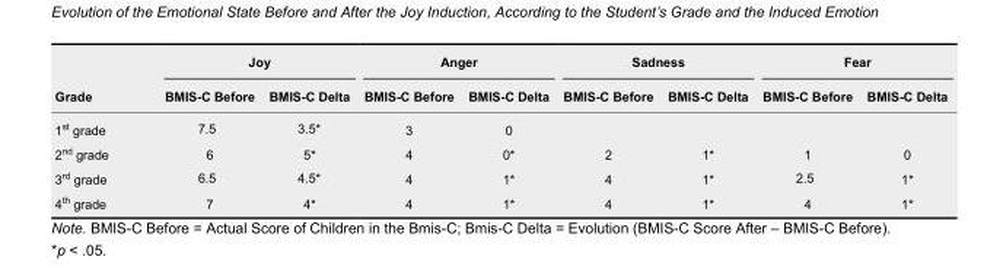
<table><thead><tr><td rowspan="2">Grade</td><td colspan="2">Joy</td><td colspan="2">Anger</td><td colspan="2">Sadness</td><td colspan="2">Fear</td></tr><tr><td>BMIS-C Before</td><td>BMIS-C Delta</td><td>BMIS-C Before</td><td>BMIS-C Delta</td><td>BMIS-C Before</td><td>BMIS-C Delta</td><td>BMIS-C Before</td><td>BMIS-C Delta</td></tr></thead><tbody><tr><td>1<sup>st</sup> grade</td><td>7.5</td><td>3.5*</td><td>3</td><td>0</td><td></td><td></td><td></td><td></td></tr><tr><td>2<sup>nd</sup> grade</td><td>6</td><td>5*</td><td>4</td><td>0*</td><td>2</td><td>1*</td><td>1</td><td>0</td></tr><tr><td>3<sup>rd</sup> grade</td><td>6.5</td><td>4.5*</td><td>4</td><td>1*</td><td>4</td><td>1*</td><td>2.5</td><td>1*</td></tr><tr><td>4<sup>th</sup> grade</td><td>7</td><td>4*</td><td>4</td><td>1*</td><td>4</td><td>1*</td><td>4</td><td>1*</td></tr></tbody></table>